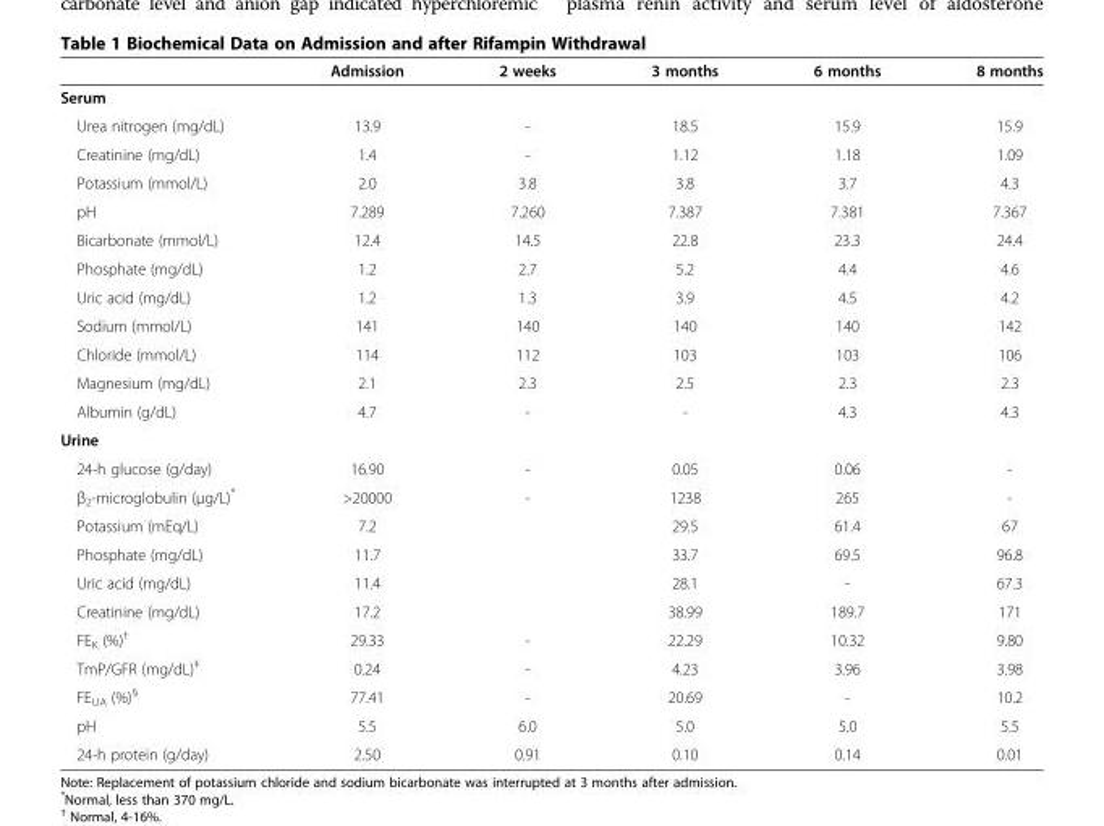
<table><thead><tr><td></td><td>Admission</td><td>2 weeks</td><td>3 months</td><td>6 months</td><td>8 months</td></tr></thead><tbody><tr><td colspan="6">Serum</td></tr><tr><td>Urea nitrogen (mg/dL)</td><td>13.9</td><td>-</td><td>18.5</td><td>15.9</td><td>15.9</td></tr><tr><td>Creatinine (mg/dL)</td><td>1.4</td><td>-</td><td>1.12</td><td>1.18</td><td>1.09</td></tr><tr><td>Potassium (mmol/L)</td><td>2.0</td><td>3.8</td><td>3.8</td><td>3.7</td><td>4.3</td></tr><tr><td>pH</td><td>7.289</td><td>7.260</td><td>7.387</td><td>7.381</td><td>7.367</td></tr><tr><td>Bicarbonate (mmol/L)</td><td>12.4</td><td>14.5</td><td>22.8</td><td>23.3</td><td>24.4</td></tr><tr><td>Phosphate (mg/dL)</td><td>1.2</td><td>2.7</td><td>5.2</td><td>4.4</td><td>4.6</td></tr><tr><td>Uric acid (mg/dL)</td><td>1.2</td><td>1.3</td><td>3.9</td><td>4.5</td><td>4.2</td></tr><tr><td>Sodium (mmol/L)</td><td>141</td><td>140</td><td>140</td><td>140</td><td>142</td></tr><tr><td>Chloride (mmol/L)</td><td>114</td><td>112</td><td>103</td><td>103</td><td>106</td></tr><tr><td>Magnesium (mg/dL)</td><td>2.1</td><td>2.3</td><td>2.5</td><td>2.3</td><td>2.3</td></tr><tr><td>Albumin (g/dL)</td><td>4.7</td><td>-</td><td>-</td><td>4.3</td><td>4.3</td></tr><tr><td colspan="6">Urine</td></tr><tr><td>24-h glucose (g/day)</td><td>16.90</td><td>-</td><td>0.05</td><td>0.06</td><td>-</td></tr><tr><td>β<sub>2</sub>-microglobulin (μg/L)*</td><td>&gt;20000</td><td>-</td><td>1238</td><td>265</td><td>-</td></tr><tr><td>Potassium (mEq/L)</td><td>7.2</td><td></td><td>29.5</td><td>61.4</td><td>67</td></tr><tr><td>Phosphate (mg/dL)</td><td>11.7</td><td></td><td>33.7</td><td>69.5</td><td>96.8</td></tr><tr><td>Uric acid (mg/dL)</td><td>11.4</td><td></td><td>28.1</td><td>-</td><td>67.3</td></tr><tr><td>Creatinine (mg/dL)</td><td>17.2</td><td></td><td>38.99</td><td>189.7</td><td>171</td></tr><tr><td>FE<sub>K</sub> (%)<sup>†</sup></td><td>29.33</td><td>-</td><td>22.29</td><td>10.32</td><td>9.80</td></tr><tr><td>TmP/GFR (mg/dL)<sup>‡</sup></td><td>0.24</td><td>-</td><td>4.23</td><td>3.96</td><td>3.98</td></tr><tr><td>FE<sub>UA</sub> (%)<sup>§</sup></td><td>77.41</td><td>-</td><td>20.69</td><td>-</td><td>10.2</td></tr><tr><td>pH</td><td>5.5</td><td>6.0</td><td>5.0</td><td>5.0</td><td>5.5</td></tr><tr><td>24-h protein (g/day)</td><td>2.50</td><td>0.91</td><td>0.10</td><td>0.14</td><td>0.01</td></tr></tbody></table>